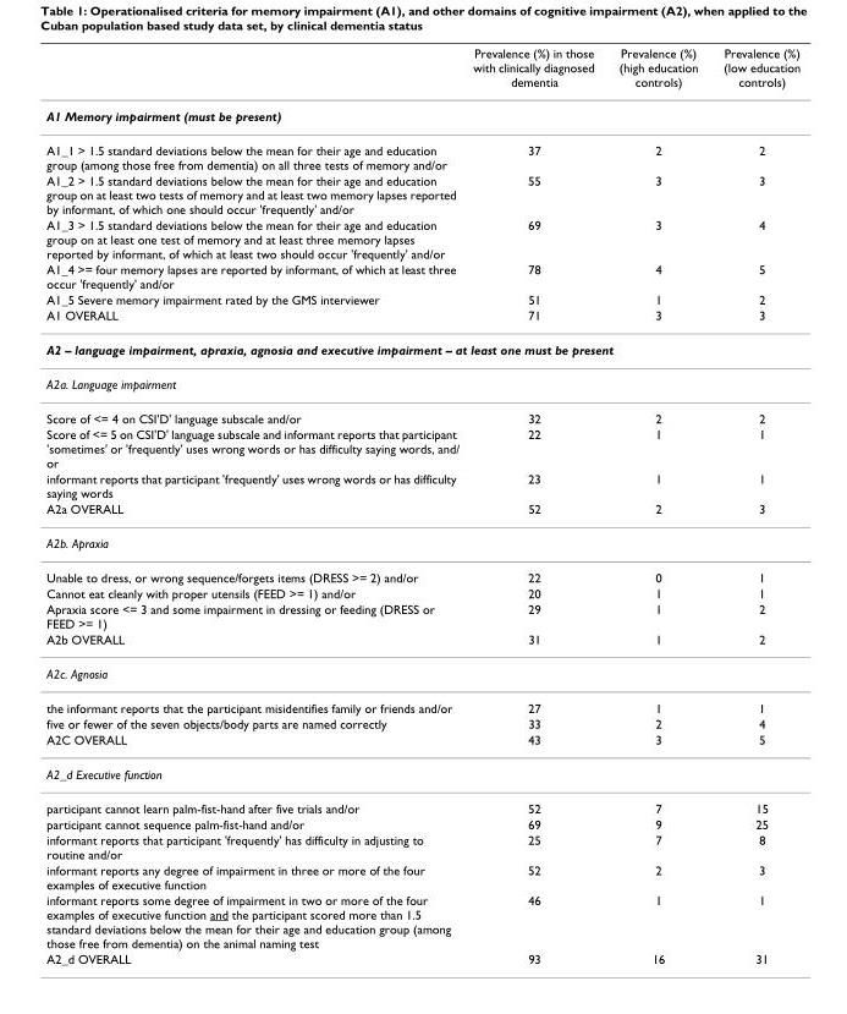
<table><thead><tr><td></td><td>Prevalence (%) in those with clinically diagnosed dementia</td><td>Prevalence (%) (high education controls)</td><td>Prevalence (%) (low education controls)</td></tr></thead><tbody><tr><td colspan="4">A1 Memory impairment (must be present)</td></tr><tr><td>A1_1 &gt; 1.5 standard deviations below the mean for their age and education group (among those free from dementia) on all three tests of memory and/or</td><td>37</td><td>2</td><td>2</td></tr><tr><td>A1_2 &gt; 1.5 standard deviations below the mean for their age and education group on at least two tests of memory and at least two memory lapses reported by informant, of which one should occur &#x27;frequently&#x27; and/or</td><td>55</td><td>3</td><td>3</td></tr><tr><td>A1_3 &gt; 1.5 standard deviations below the mean for their age and education group on at least one test of memory and at least three memory lapses reported by informant, of which at least two should occur &#x27;frequently&#x27; and/or</td><td>69</td><td>3</td><td>4</td></tr><tr><td>A1_4 &gt;= four memory lapses are reported by informant, of which at least three occur &#x27;frequently&#x27; and/or</td><td>78</td><td>4</td><td>5</td></tr><tr><td>A1_5 Severe memory impairment rated by the GMS interviewer</td><td>51</td><td>1</td><td>2</td></tr><tr><td>A1 OVERALL</td><td>71</td><td>3</td><td>3</td></tr><tr><td colspan="4">A2 – language impairment, apraxia, agnosia and executive impairment – at least one must be present</td></tr><tr><td colspan="4">A2a. Language impairment</td></tr><tr><td>Score of &lt;= 4 on CSI&#x27;D&#x27; language subscale and/or</td><td>32</td><td>2</td><td>2</td></tr><tr><td>Score of &lt;= 5 on CSI&#x27;D&#x27; language subscale and informant reports that participant &#x27;sometimes&#x27; or &#x27;frequently&#x27; uses wrong words or has difficulty saying words, and/ or</td><td>22</td><td>1</td><td>1</td></tr><tr><td>informant reports that participant &#x27;frequently&#x27; uses wrong words or has difficulty saying words</td><td>23</td><td>1</td><td>1</td></tr><tr><td>A2a OVERALL</td><td>52</td><td>2</td><td>3</td></tr><tr><td colspan="4">A2b. Apraxia</td></tr><tr><td>Unable to dress, or wrong sequence/forgets items (DRESS &gt;= 2) and/or</td><td>22</td><td>0</td><td>1</td></tr><tr><td>Cannot eat cleanly with proper utensils (FEED &gt;= 1) and/or</td><td>20</td><td>1</td><td>1</td></tr><tr><td>Apraxia score &lt;= 3 and some impairment in dressing or feeding (DRESS or FEED &gt;= 1)</td><td>29</td><td>1</td><td>2</td></tr><tr><td>A2b OVERALL</td><td>31</td><td>1</td><td>2</td></tr><tr><td colspan="4">A2c. Agnosia</td></tr><tr><td>the informant reports that the participant misidentifies family or friends and/or</td><td>27</td><td>1</td><td>1</td></tr><tr><td>five or fewer of the seven objects/body parts are named correctly</td><td>33</td><td>2</td><td>4</td></tr><tr><td>A2C OVERALL</td><td>43</td><td>3</td><td>5</td></tr><tr><td colspan="4">A2_d Executive function</td></tr><tr><td>participant cannot learn palm-fist-hand after five trials and/or</td><td>52</td><td>7</td><td>15</td></tr><tr><td>participant cannot sequence palm-fist-hand and/or</td><td>69</td><td>9</td><td>25</td></tr><tr><td>informant reports that participant &#x27;frequently&#x27; has difficulty in adjusting to routine and/or</td><td>25</td><td>7</td><td>8</td></tr><tr><td>informant reports any degree of impairment in three or more of the four examples of executive function</td><td>52</td><td>2</td><td>3</td></tr><tr><td>informant reports some degree of impairment in two or more of the four examples of executive function and the participant scored more than 1.5 standard deviations below the mean for their age and education group (among those free from dementia) on the animal naming test</td><td>46</td><td>1</td><td>1</td></tr><tr><td>A2_d OVERALL</td><td>93</td><td>16</td><td>31</td></tr></tbody></table>